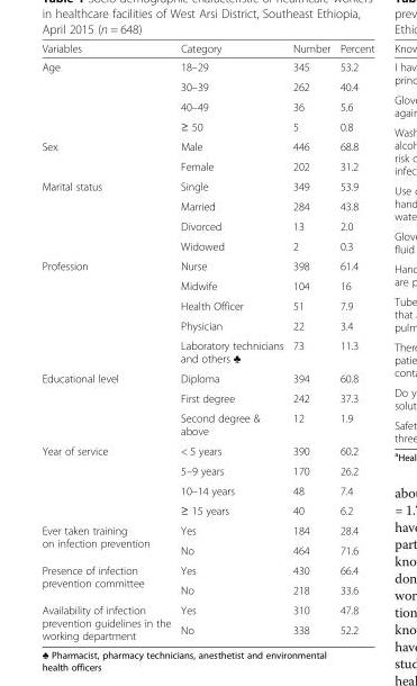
<table><thead><tr><td>Variables</td><td>Category</td><td>Number</td><td>Percent</td></tr></thead><tbody><tr><td rowspan="4">Age</td><td>18–29</td><td>345</td><td>53.2</td></tr><tr><td>30–39</td><td>262</td><td>40.4</td></tr><tr><td>40–49</td><td>36</td><td>5.6</td></tr><tr><td>≥ 50</td><td>5</td><td>0.8</td></tr><tr><td rowspan="2">Sex</td><td>Male</td><td>446</td><td>68.8</td></tr><tr><td>Female</td><td>202</td><td>31.2</td></tr><tr><td rowspan="4">Marital status</td><td>Single</td><td>349</td><td>53.9</td></tr><tr><td>Married</td><td>284</td><td>43.8</td></tr><tr><td>Divorced</td><td>13</td><td>2.0</td></tr><tr><td>Widowed</td><td>2</td><td>0.3</td></tr><tr><td rowspan="5">Profession</td><td>Nurse</td><td>398</td><td>61.4</td></tr><tr><td>Midwife</td><td>104</td><td>16</td></tr><tr><td>Health Officer</td><td>51</td><td>7.9</td></tr><tr><td>Physician</td><td>22</td><td>3.4</td></tr><tr><td>Laboratory technicians and others ♣</td><td>73</td><td>11.3</td></tr><tr><td rowspan="3">Educational level</td><td>Diploma</td><td>394</td><td>60.8</td></tr><tr><td>First degree</td><td>242</td><td>37.3</td></tr><tr><td>Second degree &amp; above</td><td>12</td><td>1.9</td></tr><tr><td rowspan="4">Year of service</td><td>&lt; 5 years</td><td>390</td><td>60.2</td></tr><tr><td>5–9 years</td><td>170</td><td>26.2</td></tr><tr><td>10–14 years</td><td>48</td><td>7.4</td></tr><tr><td>≥ 15 years</td><td>40</td><td>6.2</td></tr><tr><td rowspan="2">Ever taken training on infection prevention</td><td>Yes</td><td>184</td><td>28.4</td></tr><tr><td>No</td><td>464</td><td>71.6</td></tr><tr><td rowspan="2">Presence of infection prevention committee</td><td>Yes</td><td>430</td><td>66.4</td></tr><tr><td>No</td><td>218</td><td>33.6</td></tr><tr><td rowspan="2">Availability of infection prevention guidelines in the working department</td><td>Yes</td><td>310</td><td>47.8</td></tr><tr><td>No</td><td>338</td><td>52.2</td></tr></tbody></table>